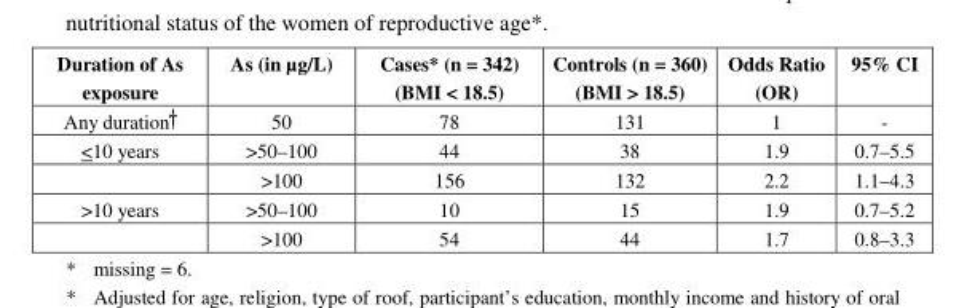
<table><thead><tr><td>Duration of As exposure</td><td>As (in µg/L)</td><td>Cases* (n = 342) (BMI &lt; 18.5)</td><td>Controls (n = 360) (BMI &gt; 18.5)</td><td>Odds Ratio (OR)</td><td>95% CI</td></tr></thead><tbody><tr><td>Any duration</td><td>50</td><td>78</td><td>131</td><td>1</td><td>-</td></tr><tr><td rowspan="2">&lt;10 years</td><td>&gt;50–100</td><td>44</td><td>38</td><td>1.9</td><td>0.7–5.5</td></tr><tr><td>&gt;100</td><td>156</td><td>132</td><td>2.2</td><td>1.1–4.3</td></tr><tr><td rowspan="2">&gt;10 years</td><td>&gt;50–100</td><td>10</td><td>15</td><td>1.9</td><td>0.7–5.2</td></tr><tr><td>&gt;100</td><td>54</td><td>44</td><td>1.7</td><td>0.8–3.3</td></tr></tbody></table>